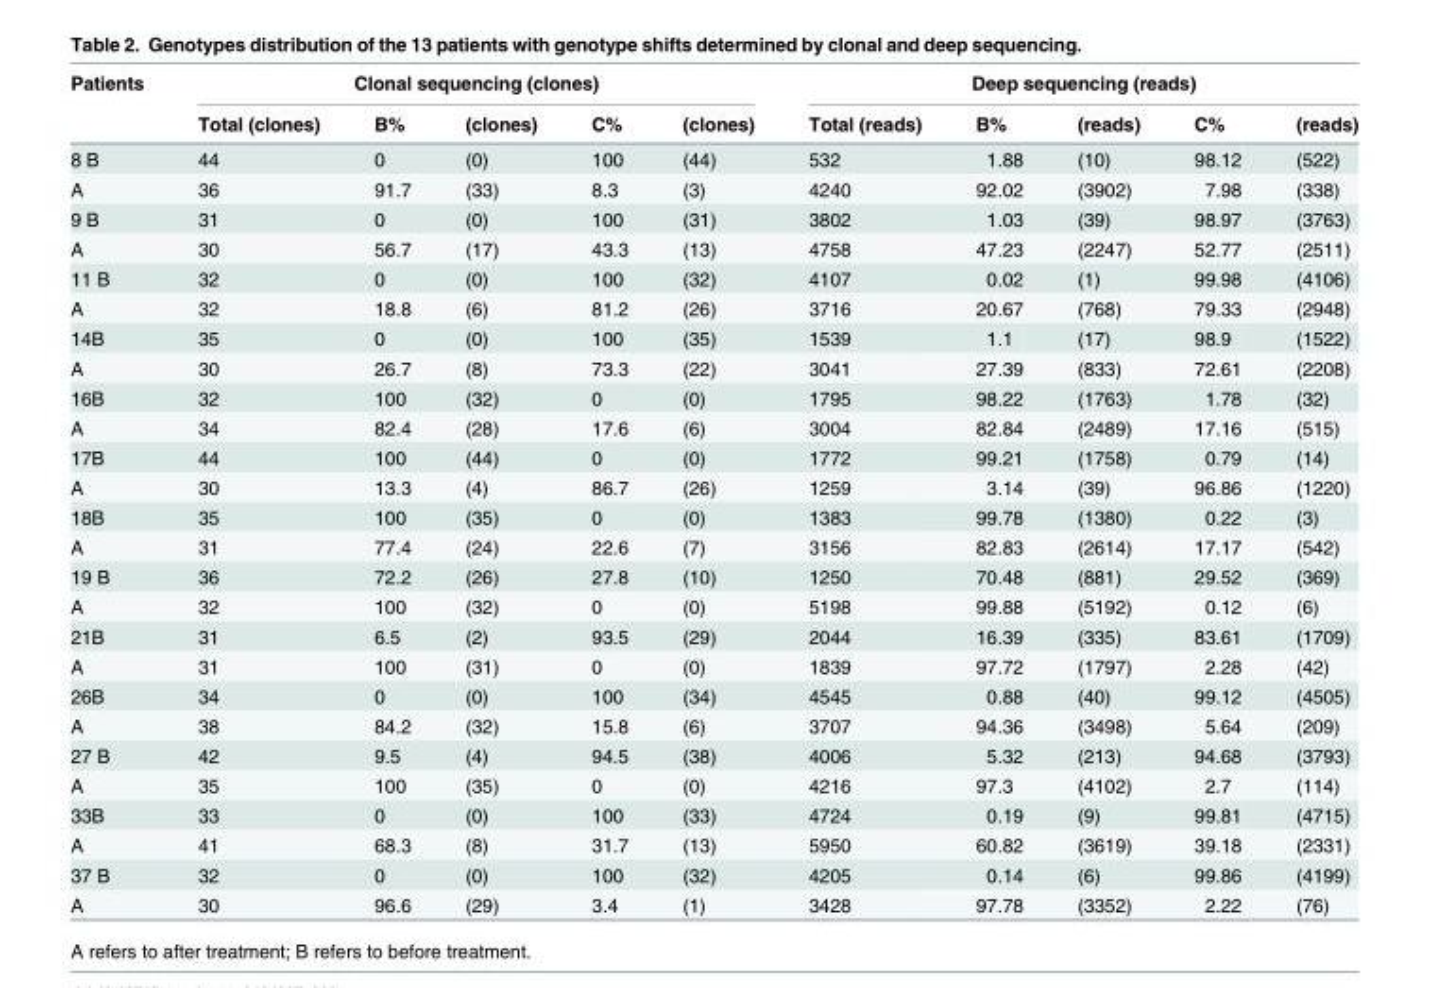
<table><thead><tr><td rowspan="2">Patients</td><td colspan="5">Clonal sequencing (clones)</td><td colspan="5">Deep sequencing (reads)</td></tr><tr><td>Total (clones)</td><td>B%</td><td>(clones)</td><td>C%</td><td>(clones)</td><td>Total (reads)</td><td>B%</td><td>(reads)</td><td>C%</td><td>(reads)</td></tr></thead><tbody><tr><td>8 B</td><td>44</td><td>0</td><td>(0)</td><td>100</td><td>(44)</td><td>532</td><td>1.88</td><td>(10)</td><td>98.12</td><td>(522)</td></tr><tr><td>A</td><td>36</td><td>91.7</td><td>(33)</td><td>8.3</td><td>(3)</td><td>4240</td><td>92.02</td><td>(3902)</td><td>7.98</td><td>(338)</td></tr><tr><td>9 B</td><td>31</td><td>0</td><td>(0)</td><td>100</td><td>(31)</td><td>3802</td><td>1.03</td><td>(39)</td><td>98.97</td><td>(3763)</td></tr><tr><td>A</td><td>30</td><td>56.7</td><td>(17)</td><td>43.3</td><td>(13)</td><td>4758</td><td>47.23</td><td>(2247)</td><td>52.77</td><td>(2511)</td></tr><tr><td>11 B</td><td>32</td><td>0</td><td>(0)</td><td>100</td><td>(32)</td><td>4107</td><td>0.02</td><td>(1)</td><td>99.98</td><td>(4106)</td></tr><tr><td>A</td><td>32</td><td>18.8</td><td>(6)</td><td>81.2</td><td>(26)</td><td>3716</td><td>20.67</td><td>(768)</td><td>79.33</td><td>(2948)</td></tr><tr><td>14B</td><td>35</td><td>0</td><td>(0)</td><td>100</td><td>(35)</td><td>1539</td><td>1.1</td><td>(17)</td><td>98.9</td><td>(1522)</td></tr><tr><td>A</td><td>30</td><td>26.7</td><td>(8)</td><td>73.3</td><td>(22)</td><td>3041</td><td>27.39</td><td>(833)</td><td>72.61</td><td>(2208)</td></tr><tr><td>16B</td><td>32</td><td>100</td><td>(32)</td><td>0</td><td>(0)</td><td>1795</td><td>98.22</td><td>(1763)</td><td>1.78</td><td>(32)</td></tr><tr><td>A</td><td>34</td><td>82.4</td><td>(28)</td><td>17.6</td><td>(6)</td><td>3004</td><td>82.84</td><td>(2489)</td><td>17.16</td><td>(515)</td></tr><tr><td>17B</td><td>44</td><td>100</td><td>(44)</td><td>0</td><td>(0)</td><td>1772</td><td>99.21</td><td>(1758)</td><td>0.79</td><td>(14)</td></tr><tr><td>A</td><td>30</td><td>13.3</td><td>(4)</td><td>86.7</td><td>(26)</td><td>1259</td><td>3.14</td><td>(39)</td><td>96.86</td><td>(1220)</td></tr><tr><td>18B</td><td>35</td><td>100</td><td>(35)</td><td>0</td><td>(0)</td><td>1383</td><td>99.78</td><td>(1380)</td><td>0.22</td><td>(3)</td></tr><tr><td>A</td><td>31</td><td>77.4</td><td>(24)</td><td>22.6</td><td>(7)</td><td>3156</td><td>82.83</td><td>(2614)</td><td>17.17</td><td>(542)</td></tr><tr><td>19 B</td><td>36</td><td>72.2</td><td>(26)</td><td>27.8</td><td>(10)</td><td>1250</td><td>70.48</td><td>(881)</td><td>29.52</td><td>(369)</td></tr><tr><td>A</td><td>32</td><td>100</td><td>(32)</td><td>0</td><td>(0)</td><td>5198</td><td>99.88</td><td>(5192)</td><td>0.12</td><td>(6)</td></tr><tr><td>21B</td><td>31</td><td>6.5</td><td>(2)</td><td>93.5</td><td>(29)</td><td>2044</td><td>16.39</td><td>(335)</td><td>83.61</td><td>(1709)</td></tr><tr><td>A</td><td>31</td><td>100</td><td>(31)</td><td>0</td><td>(0)</td><td>1839</td><td>97.72</td><td>(1797)</td><td>2.28</td><td>(42)</td></tr><tr><td>26B</td><td>34</td><td>0</td><td>(0)</td><td>100</td><td>(34)</td><td>4545</td><td>0.88</td><td>(40)</td><td>99.12</td><td>(4505)</td></tr><tr><td>A</td><td>38</td><td>84.2</td><td>(32)</td><td>15.8</td><td>(6)</td><td>3707</td><td>94.36</td><td>(3498)</td><td>5.64</td><td>(209)</td></tr><tr><td>27 B</td><td>42</td><td>9.5</td><td>(4)</td><td>94.5</td><td>(38)</td><td>4006</td><td>5.32</td><td>(213)</td><td>94.68</td><td>(3793)</td></tr><tr><td>A</td><td>35</td><td>100</td><td>(35)</td><td>0</td><td>(0)</td><td>4216</td><td>97.3</td><td>(4102)</td><td>2.7</td><td>(114)</td></tr><tr><td>33B</td><td>33</td><td>0</td><td>(0)</td><td>100</td><td>(33)</td><td>4724</td><td>0.19</td><td>(9)</td><td>99.81</td><td>(4715)</td></tr><tr><td>A</td><td>41</td><td>68.3</td><td>(8)</td><td>31.7</td><td>(13)</td><td>5950</td><td>60.82</td><td>(3619)</td><td>39.18</td><td>(2331)</td></tr><tr><td>37 B</td><td>32</td><td>0</td><td>(0)</td><td>100</td><td>(32)</td><td>4205</td><td>0.14</td><td>(6)</td><td>99.86</td><td>(4199)</td></tr><tr><td>A</td><td>30</td><td>96.6</td><td>(29)</td><td>3.4</td><td>(1)</td><td>3428</td><td>97.78</td><td>(3352)</td><td>2.22</td><td>(76)</td></tr></tbody></table>